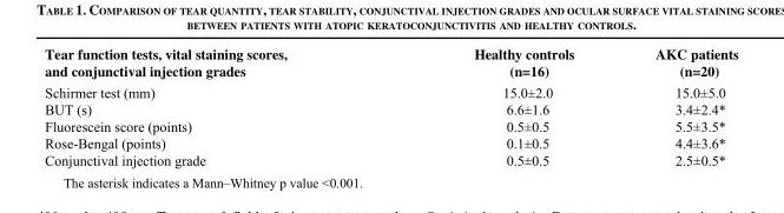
<table><thead><tr><td>Tear function tests, vital staining scores, and conjunctival injection grades</td><td>Healthy controls (n=16)</td><td>AKC patients (n=20)</td></tr></thead><tbody><tr><td>Schirmer test (mm)</td><td>15.0±2.0</td><td>15.0±5.0</td></tr><tr><td>BUT (s)</td><td>6.6±1.6</td><td>3.4±2.4*</td></tr><tr><td>Fluorescein score (points)</td><td>0.5±0.5</td><td>5.5±3.5*</td></tr><tr><td>Rose-Bengal (points)</td><td>0.1±0.5</td><td>4.4±3.6*</td></tr><tr><td>Conjunctival injection grade</td><td>0.5±0.5</td><td>2.5±0.5*</td></tr></tbody></table>